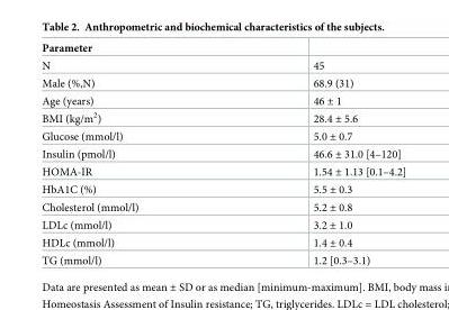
<table><thead><tr><td>Parameter</td><td></td></tr></thead><tbody><tr><td>N</td><td>45</td></tr><tr><td>Male (%,N)</td><td>68.9 (31)</td></tr><tr><td>Age (years)</td><td>46 ± 1</td></tr><tr><td>BMI (kg/m<sup>2</sup>)</td><td>28.4 ± 5.6</td></tr><tr><td>Glucose (mmol/l)</td><td>5.0 ± 0.7</td></tr><tr><td>Insulin (pmol/l)</td><td>46.6 ± 31.0 [4–120]</td></tr><tr><td>HOMA-IR</td><td>1.54 ± 1.13 [0.1–4.2]</td></tr><tr><td>HbA1C (%)</td><td>5.5 ± 0.3</td></tr><tr><td>Cholesterol (mmol/l)</td><td>5.2 ± 0.8</td></tr><tr><td>LDLc (mmol/l)</td><td>3.2 ± 1.0</td></tr><tr><td>HDLc (mmol/l)</td><td>1.4 ± 0.4</td></tr><tr><td>TG (mmol/l)</td><td>1.2 [0.3–3.1)</td></tr></tbody></table>